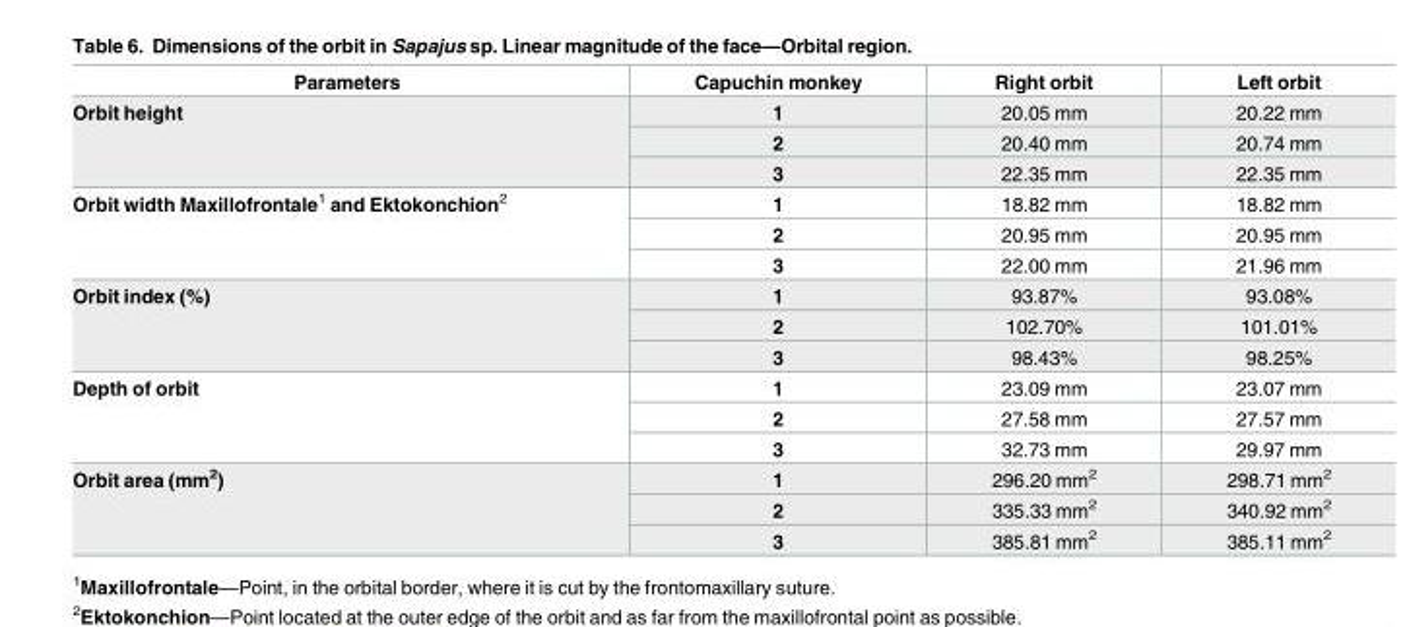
<table><thead><tr><td>Parameters</td><td>Capuchin monkey</td><td>Right orbit</td><td>Left orbit</td></tr></thead><tbody><tr><td rowspan="3">Orbit height</td><td>1</td><td>20.05 mm</td><td>20.22 mm</td></tr><tr><td>2</td><td>20.40 mm</td><td>20.74 mm</td></tr><tr><td>3</td><td>22.35 mm</td><td>22.35 mm</td></tr><tr><td rowspan="3">Orbit width Maxillofrontale<sup>1</sup> and Ektokonchion<sup>2</sup></td><td>1</td><td>18.82 mm</td><td>18.82 mm</td></tr><tr><td>2</td><td>20.95 mm</td><td>20.95 mm</td></tr><tr><td>3</td><td>22.00 mm</td><td>21.96 mm</td></tr><tr><td rowspan="3">Orbit index (%)</td><td>1</td><td>93.87%</td><td>93.08%</td></tr><tr><td>2</td><td>102.70%</td><td>101.01%</td></tr><tr><td>3</td><td>98.43%</td><td>98.25%</td></tr><tr><td rowspan="3">Depth of orbit</td><td>1</td><td>23.09 mm</td><td>23.07 mm</td></tr><tr><td>2</td><td>27.58 mm</td><td>27.57 mm</td></tr><tr><td>3</td><td>32.73 mm</td><td>29.97 mm</td></tr><tr><td rowspan="3">Orbit area (mm<sup>2</sup>)</td><td>1</td><td>296.20 mm<sup>2</sup></td><td>298.71 mm<sup>2</sup></td></tr><tr><td>2</td><td>335.33 mm<sup>2</sup></td><td>340.92 mm<sup>2</sup></td></tr><tr><td>3</td><td>385.81 mm<sup>2</sup></td><td>385.11 mm<sup>2</sup></td></tr></tbody></table>